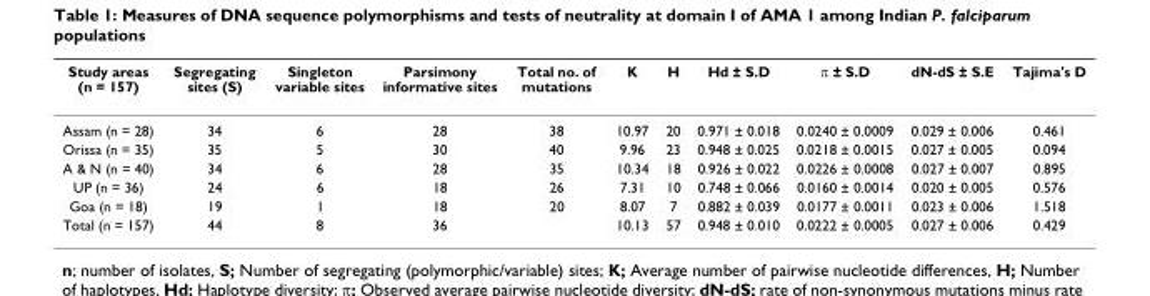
<table><thead><tr><td>Study areas (n = 157)</td><td>Segregating sites (S)</td><td>Singleton variable sites</td><td>Parsimony informative sites</td><td>Total no. of mutations</td><td>K</td><td>H</td><td>Hd ± S.D</td><td>π ± S.D</td><td>dN-dS ± S.E</td><td>Tajima&#x27;s D</td></tr></thead><tbody><tr><td>Assam (n = 28)</td><td>34</td><td>6</td><td>28</td><td>38</td><td>10.97</td><td>20</td><td>0.971 ± 0.018</td><td>0.0240 ± 0.0009</td><td>0.029 ± 0.006</td><td>0.461</td></tr><tr><td>Orissa (n = 35)</td><td>35</td><td>5</td><td>30</td><td>40</td><td>9.96</td><td>23</td><td>0.948 ± 0.025</td><td>0.0218 ± 0.0015</td><td>0.027 ± 0.005</td><td>0.094</td></tr><tr><td>A &amp; N (n = 40)</td><td>34</td><td>6</td><td>28</td><td>35</td><td>10.34</td><td>18</td><td>0.926 ± 0.022</td><td>0.0226 ± 0.0008</td><td>0.027 ± 0.007</td><td>0.895</td></tr><tr><td>UP (n = 36)</td><td>24</td><td>6</td><td>18</td><td>26</td><td>7.31</td><td>10</td><td>0.748 ± 0.066</td><td>0.0160 ± 0.0014</td><td>0.020 ± 0.005</td><td>0.576</td></tr><tr><td>Goa (n = 18)</td><td>19</td><td>1</td><td>18</td><td>20</td><td>8.07</td><td>7</td><td>0.882 ± 0.039</td><td>0.0177 ± 0.0011</td><td>0.023 ± 0.006</td><td>1.518</td></tr><tr><td>Total (n = 157)</td><td>44</td><td>8</td><td>36</td><td></td><td>10.13</td><td>57</td><td>0.948 ± 0.010</td><td>0.0222 ± 0.0005</td><td>0.027 ± 0.006</td><td>0.429</td></tr></tbody></table>